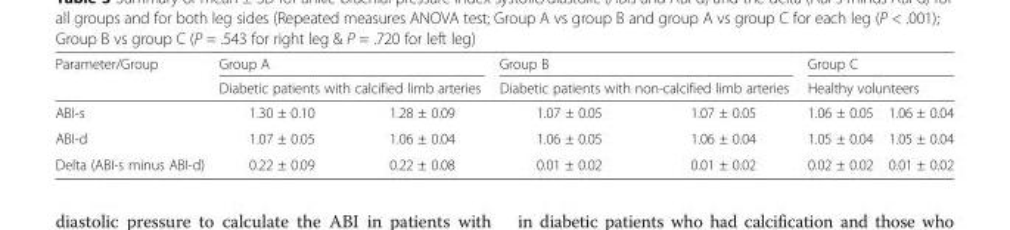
<table><thead><tr><td rowspan="3">Parameter/Group ABI-s</td><td rowspan="2" colspan="2">Group A Diabetic patients with calcified limb arteries</td><td rowspan="2" colspan="2">Group B Diabetic patients with non-calcified limb arteries</td><td rowspan="2" colspan="2">Group C Healthy volunteers</td></tr><tr></tr><tr><td>1.30 ± 0.10</td><td>1.28 ± 0.09</td><td>1.07 ± 0.05</td><td>1.07 ± 0.05</td><td>1.06 ± 0.05</td><td>1.06 ± 0.04</td></tr></thead><tbody><tr><td>ABI-d</td><td>1.07 ± 0.05</td><td>1.06 ± 0.04</td><td>1.06 ± 0.05</td><td>1.06 ± 0.04</td><td>1.05 ± 0.04</td><td>1.05 ± 0.04</td></tr><tr><td>Delta (ABI-s minus ABI-d)</td><td>0.22 ± 0.09</td><td>0.22 ± 0.08</td><td>0.01 ± 0.02</td><td>0.01 ± 0.02</td><td>0.02 ± 0.02</td><td>0.01 ± 0.02</td></tr></tbody></table>